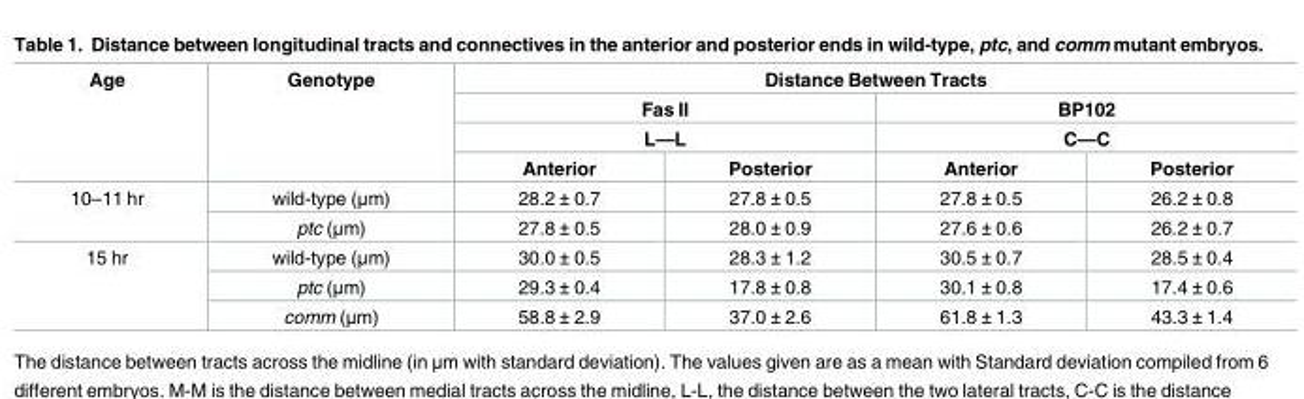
<table><thead><tr><td rowspan="4">Age</td><td rowspan="4">Genotype</td><td colspan="4">Distance Between Tracts</td></tr><tr><td rowspan="2" colspan="2">Fas II L—L</td><td rowspan="2" colspan="2">BP102 C—C</td></tr><tr></tr><tr><td>Anterior</td><td>Posterior</td><td>Anterior</td><td>Posterior</td></tr></thead><tbody><tr><td rowspan="2">10–11 hr</td><td>wild-type (μm)</td><td>28.2 ± 0.7</td><td>27.8 ± 0.5</td><td>27.8 ± 0.5</td><td>26.2 ± 0.8</td></tr><tr><td>ptc (μm)</td><td>27.8 ± 0.5</td><td>28.0 ± 0.9</td><td>27.6 ± 0.6</td><td>26.2 ± 0.7</td></tr><tr><td rowspan="3">15 hr</td><td>wild-type (μm)</td><td>30.0 ± 0.5</td><td>28.3 ± 1.2</td><td>30.5 ± 0.7</td><td>28.5 ± 0.4</td></tr><tr><td>ptc (μm)</td><td>29.3 ± 0.4</td><td>17.8 ± 0.8</td><td>30.1 ± 0.8</td><td>17.4 ± 0.6</td></tr><tr><td>comm (μm)</td><td>58.8 ± 2.9</td><td>37.0 ± 2.6</td><td>61.8 ± 1.3</td><td>43.3 ± 1.4</td></tr></tbody></table>